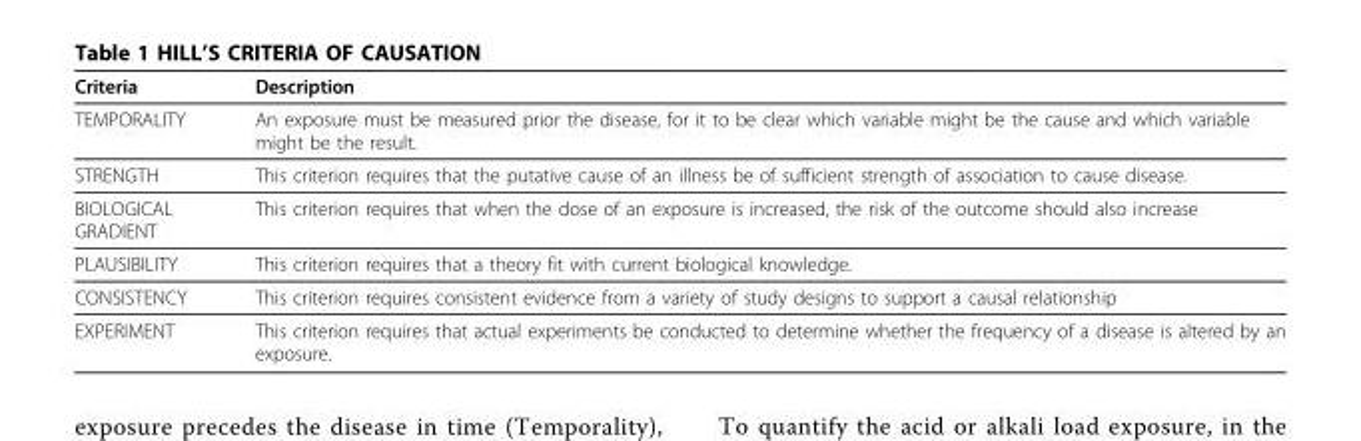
<table><thead><tr><td>Criteria</td><td>Description</td></tr></thead><tbody><tr><td>TEMPORALITY</td><td>An exposure must be measured prior the disease, for it to be clear which variable might be the cause and which variable might be the result.</td></tr><tr><td>STRENGTH</td><td>This criterion requires that the putative cause of an illness be of sufficient strength of association to cause disease.</td></tr><tr><td>BIOLOGICAL GRADIENT</td><td>This criterion requires that when the dose of an exposure is increased, the risk of the outcome should also increase</td></tr><tr><td>PLAUSIBILITY</td><td>This criterion requires that a theory fit with current biological knowledge.</td></tr><tr><td>CONSISTENCY</td><td>This criterion requires consistent evidence from a variety of study designs to support a causal relationship</td></tr><tr><td>EXPERIMENT</td><td>This criterion requires that actual experiments be conducted to determine whether the frequency of a disease is altered by an exposure.</td></tr></tbody></table>